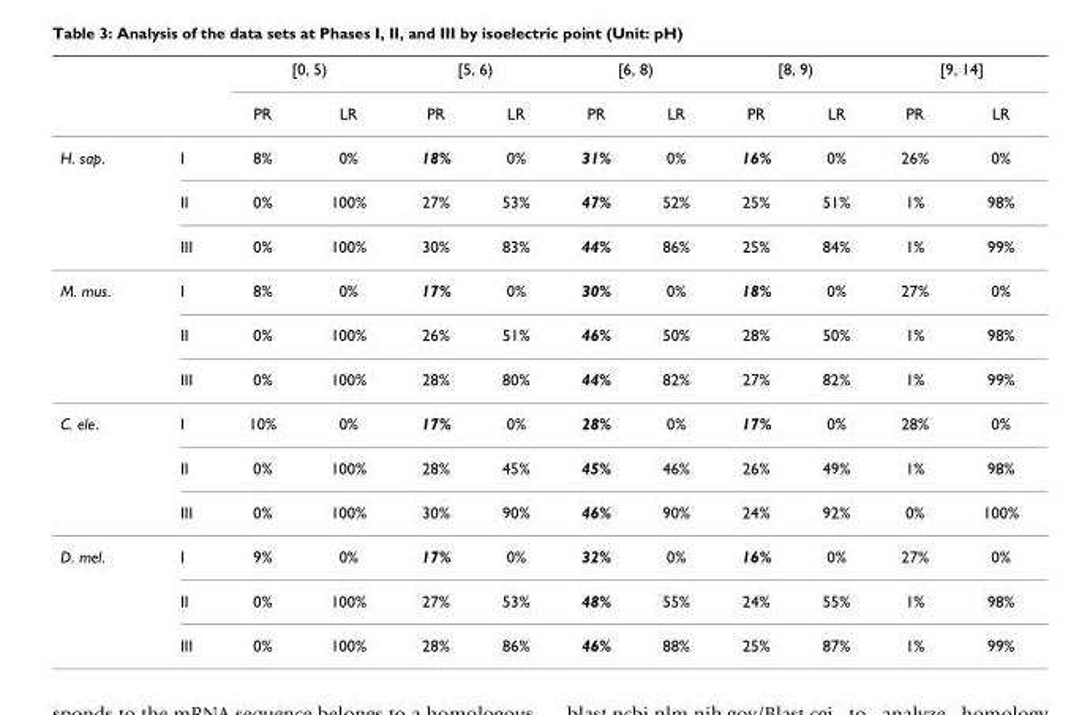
<table><thead><tr><td rowspan="2"></td><td rowspan="2"></td><td colspan="2">[0, 5)</td><td colspan="2">[5, 6)</td><td colspan="2">[6, 8)</td><td colspan="2">[8, 9)</td><td colspan="2">[9, 14]</td></tr><tr><td>PR</td><td>LR</td><td>PR</td><td>LR</td><td>PR</td><td>LR</td><td>PR</td><td>LR</td><td>PR</td><td>LR</td></tr></thead><tbody><tr><td rowspan="3">H. sap.</td><td>I</td><td>8%</td><td>0%</td><td>18%</td><td>0%</td><td>31%</td><td>0%</td><td>16%</td><td>0%</td><td>26%</td><td>0%</td></tr><tr><td>II</td><td>0%</td><td>100%</td><td>27%</td><td>53%</td><td>47%</td><td>52%</td><td>25%</td><td>51%</td><td>1%</td><td>98%</td></tr><tr><td>III</td><td>0%</td><td>100%</td><td>30%</td><td>83%</td><td>44%</td><td>86%</td><td>25%</td><td>84%</td><td>1%</td><td>99%</td></tr><tr><td rowspan="3">M. mus.</td><td>I</td><td>8%</td><td>0%</td><td>17%</td><td>0%</td><td>30%</td><td>0%</td><td>18%</td><td>0%</td><td>27%</td><td>0%</td></tr><tr><td>II</td><td>0%</td><td>100%</td><td>26%</td><td>51%</td><td>46%</td><td>50%</td><td>28%</td><td>50%</td><td>1%</td><td>98%</td></tr><tr><td>III</td><td>0%</td><td>100%</td><td>28%</td><td>80%</td><td>44%</td><td>82%</td><td>27%</td><td>82%</td><td>1%</td><td>99%</td></tr><tr><td rowspan="3">C. ele.</td><td>I</td><td>10%</td><td>0%</td><td>17%</td><td>0%</td><td>28%</td><td>0%</td><td>17%</td><td>0%</td><td>28%</td><td>0%</td></tr><tr><td>II</td><td>0%</td><td>100%</td><td>28%</td><td>45%</td><td>45%</td><td>46%</td><td>26%</td><td>49%</td><td>1%</td><td>98%</td></tr><tr><td>III</td><td>0%</td><td>100%</td><td>30%</td><td>90%</td><td>46%</td><td>90%</td><td>24%</td><td>92%</td><td>0%</td><td>100%</td></tr><tr><td rowspan="3">D. mel.</td><td>I</td><td>9%</td><td>0%</td><td>17%</td><td>0%</td><td>32%</td><td>0%</td><td>16%</td><td>0%</td><td>27%</td><td>0%</td></tr><tr><td>II</td><td>0%</td><td>100%</td><td>27%</td><td>53%</td><td>48%</td><td>55%</td><td>24%</td><td>55%</td><td>1%</td><td>98%</td></tr><tr><td>III</td><td>0%</td><td>100%</td><td>28%</td><td>86%</td><td>46%</td><td>88%</td><td>25%</td><td>87%</td><td>1%</td><td>99%</td></tr></tbody></table>